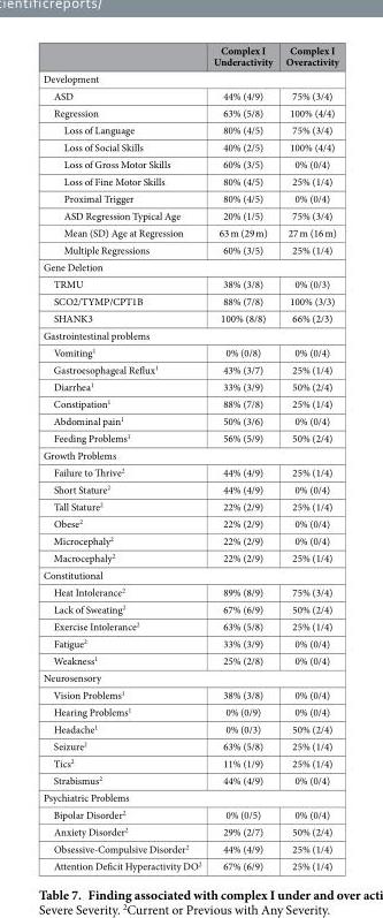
<table><thead><tr><td></td><td>Complex I Underactivity</td><td>Complex I Overactivity</td></tr></thead><tbody><tr><td colspan="3">Development</td></tr><tr><td>ASD</td><td>44% (4/9)</td><td>75% (3/4)</td></tr><tr><td>Regression</td><td>63% (5/8)</td><td>100% (4/4)</td></tr><tr><td>Loss of Language</td><td>80% (4/5)</td><td>75% (3/4)</td></tr><tr><td>Loss of Social Skills</td><td>40% (2/5)</td><td>100% (4/4)</td></tr><tr><td>Loss of Gross Motor Skills</td><td>60% (3/5)</td><td>0% (0/4)</td></tr><tr><td>Loss of Fine Motor Skills</td><td>80% (4/5)</td><td>25% (1/4)</td></tr><tr><td>Proximal Trigger</td><td>80% (4/5)</td><td>0% (0/4)</td></tr><tr><td>ASD Regression Typical Age</td><td>20% (1/5)</td><td>75% (3/4)</td></tr><tr><td>Mean (SD) Age at Regression</td><td>63 m (29 m)</td><td>27 m (16 m)</td></tr><tr><td>Multiple Regressions</td><td>60% (3/5)</td><td>25% (1/4)</td></tr><tr><td colspan="3">Gene Deletion</td></tr><tr><td>TRMU</td><td>38% (3/8)</td><td>0% (0/3)</td></tr><tr><td>SCO2/TYMP/CPT1B</td><td>88% (7/8)</td><td>100% (3/3)</td></tr><tr><td>SHANK3</td><td>100% (8/8)</td><td>66% (2/3)</td></tr><tr><td colspan="3">Gastrointestinal problems</td></tr><tr><td>Vomiting<sup>1</sup></td><td>0% (0/8)</td><td>0% (0/4)</td></tr><tr><td>Gastroesophageal Reflux<sup>1</sup></td><td>43% (3/7)</td><td>25% (1/4)</td></tr><tr><td>Diarrhea<sup>1</sup></td><td>33% (3/9)</td><td>50% (2/4)</td></tr><tr><td>Constipation<sup>1</sup></td><td>88% (7/8)</td><td>25% (1/4)</td></tr><tr><td>Abdominal pain<sup>1</sup></td><td>50% (3/6)</td><td>0% (0/4)</td></tr><tr><td>Feeding Problems<sup>1</sup></td><td>56% (5/9)</td><td>50% (2/4)</td></tr><tr><td colspan="3">Growth Problems</td></tr><tr><td>Failure to Thrive<sup>2</sup></td><td>44% (4/9)</td><td>25% (1/4)</td></tr><tr><td>Short Stature<sup>2</sup></td><td>44% (4/9)</td><td>0% (0/4)</td></tr><tr><td>Tall Stature<sup>2</sup></td><td>22% (2/9)</td><td>25% (1/4)</td></tr><tr><td>Obese<sup>2</sup></td><td>22% (2/9)</td><td>0% (0/4)</td></tr><tr><td>Microcephaly<sup>2</sup></td><td>22% (2/9)</td><td>0% (0/4)</td></tr><tr><td>Macrocephaly<sup>2</sup></td><td>22% (2/9)</td><td>25% (1/4)</td></tr><tr><td colspan="3">Constitutional</td></tr><tr><td>Heat Intolerance<sup>2</sup></td><td>89% (8/9)</td><td>75% (3/4)</td></tr><tr><td>Lack of Sweating<sup>2</sup></td><td>67% (6/9)</td><td>50% (2/4)</td></tr><tr><td>Exercise Intolerance<sup>2</sup></td><td>63% (5/8)</td><td>25% (1/4)</td></tr><tr><td>Fatigue<sup>2</sup></td><td>33% (3/9)</td><td>0% (0/4)</td></tr><tr><td>Weakness<sup>1</sup></td><td>25% (2/8)</td><td>0% (0/4)</td></tr><tr><td colspan="3">Neurosensory</td></tr><tr><td>Vision Problems<sup>1</sup></td><td>38% (3/8)</td><td>0% (0/4)</td></tr><tr><td>Hearing Problems<sup>1</sup></td><td>0% (0/9)</td><td>0% (0/4)</td></tr><tr><td>Headache<sup>1</sup></td><td>0% (0/3)</td><td>50% (2/4)</td></tr><tr><td>Seizure<sup>2</sup></td><td>63% (5/8)</td><td>25% (1/4)</td></tr><tr><td>Tics<sup>2</sup></td><td>11% (1/9)</td><td>25% (1/4)</td></tr><tr><td>Strabismus<sup>2</sup></td><td>44% (4/9)</td><td>0% (0/4)</td></tr><tr><td colspan="3">Psychiatric Problems</td></tr><tr><td>Bipolar Disorder<sup>2</sup></td><td>0% (0/5)</td><td>0% (0/4)</td></tr><tr><td>Anxiety Disorder<sup>2</sup></td><td>29% (2/7)</td><td>50% (2/4)</td></tr><tr><td>Obsessive-Compulsive Disorder<sup>2</sup></td><td>44% (4/9)</td><td>25% (1/4)</td></tr><tr><td>Attention Deficit Hyperactivity DO<sup>2</sup></td><td>67% (6/9)</td><td>25% (1/4)</td></tr></tbody></table>